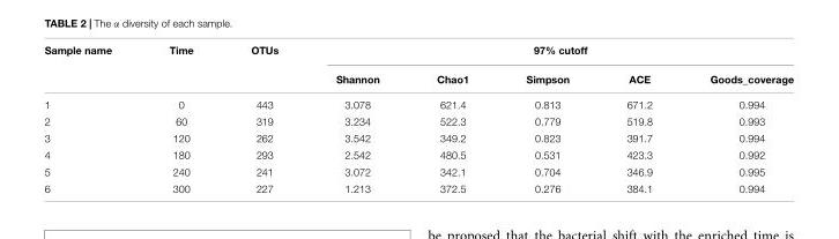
<table><thead><tr><td rowspan="2">Sample name</td><td rowspan="2">Time</td><td rowspan="2">OTUs</td><td colspan="5">97% cutoff</td></tr><tr><td>Shannon</td><td>Chao1</td><td>Simpson</td><td>ACE</td><td>Goods_coverage</td></tr></thead><tbody><tr><td>1</td><td>0</td><td>443</td><td>3.078</td><td>621.4</td><td>0.813</td><td>671.2</td><td>0.994</td></tr><tr><td>2</td><td>60</td><td>319</td><td>3.234</td><td>522.3</td><td>0.779</td><td>519.8</td><td>0.993</td></tr><tr><td>3</td><td>120</td><td>262</td><td>3.542</td><td>349.2</td><td>0.823</td><td>391.7</td><td>0.994</td></tr><tr><td>4</td><td>180</td><td>293</td><td>2.542</td><td>480.5</td><td>0.531</td><td>423.3</td><td>0.992</td></tr><tr><td>5</td><td>240</td><td>241</td><td>3.072</td><td>342.1</td><td>0.704</td><td>346.9</td><td>0.995</td></tr><tr><td>6</td><td>300</td><td>227</td><td>1.213</td><td>372.5</td><td>0.276</td><td>384.1</td><td>0.994</td></tr></tbody></table>